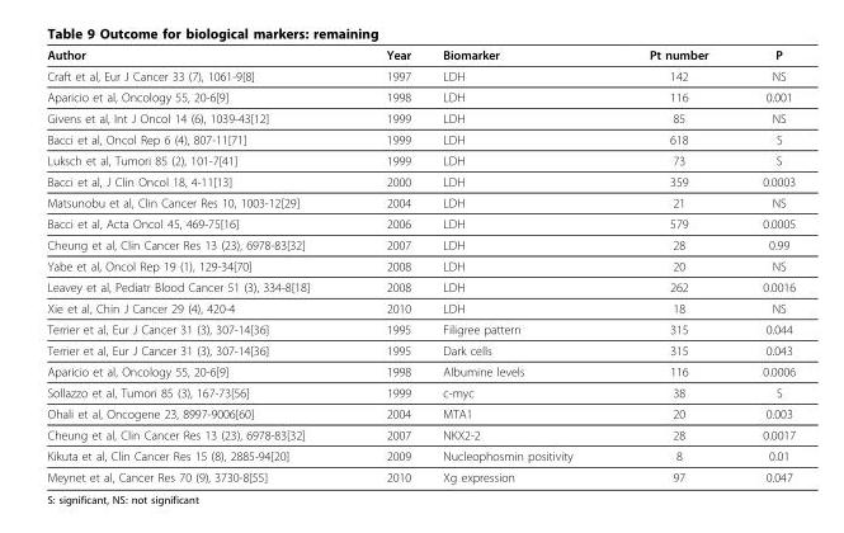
<table><thead><tr><td>Author</td><td>Year</td><td>Biomarker</td><td>Pt number</td><td>P</td></tr></thead><tbody><tr><td>Craft et al, Eur J Cancer 33 (7), 1061-9[8]</td><td>1997</td><td>LDH</td><td>142</td><td>NS</td></tr><tr><td>Aparicio et al, Oncology 55, 20-6[9]</td><td>1998</td><td>LDH</td><td>116</td><td>0.001</td></tr><tr><td>Givens et al, Int J Oncol 14 (6), 1039-43[12]</td><td>1999</td><td>LDH</td><td>85</td><td>NS</td></tr><tr><td>Bacci et al, Oncol Rep 6 (4), 807-11[71]</td><td>1999</td><td>LDH</td><td>618</td><td>S</td></tr><tr><td>Luksch et al, Tumori 85 (2), 101-7[41]</td><td>1999</td><td>LDH</td><td>73</td><td>S</td></tr><tr><td>Bacci et al, J Clin Oncol 18, 4-11[13]</td><td>2000</td><td>LDH</td><td>359</td><td>0.0003</td></tr><tr><td>Matsunobu et al, Clin Cancer Res 10, 1003-12[29]</td><td>2004</td><td>LDH</td><td>21</td><td>NS</td></tr><tr><td>Bacci et al, Acta Oncol 45, 469-75[16]</td><td>2006</td><td>LDH</td><td>579</td><td>0.0005</td></tr><tr><td>Cheung et al, Clin Cancer Res 13 (23), 6978-83[32]</td><td>2007</td><td>LDH</td><td>28</td><td>0.99</td></tr><tr><td>Yabe et al, Oncol Rep 19 (1), 129-34[70]</td><td>2008</td><td>LDH</td><td>20</td><td>NS</td></tr><tr><td>Leavey et al, Pediatr Blood Cancer 51 (3), 334-8[18]</td><td>2008</td><td>LDH</td><td>262</td><td>0.0016</td></tr><tr><td>Xie et al, Chin J Cancer 29 (4), 420-4</td><td>2010</td><td>LDH</td><td>18</td><td>NS</td></tr><tr><td>Terrier et al, Eur J Cancer 31 (3), 307-14[36]</td><td>1995</td><td>Filigree pattern</td><td>315</td><td>0.044</td></tr><tr><td>Terrier et al, Eur J Cancer 31 (3), 307-14[36]</td><td>1995</td><td>Dark cells</td><td>315</td><td>0.043</td></tr><tr><td>Aparicio et al, Oncology 55, 20-6[9]</td><td>1998</td><td>Albumine levels</td><td>116</td><td>0.0006</td></tr><tr><td>Sollazzo et al, Tumori 85 (3), 167-73[56]</td><td>1999</td><td>c-myc</td><td>38</td><td>S</td></tr><tr><td>Ohali et al, Oncogene 23, 8997-9006[60]</td><td>2004</td><td>MTA1</td><td>20</td><td>0.003</td></tr><tr><td>Cheung et al, Clin Cancer Res 13 (23), 6978-83[32]</td><td>2007</td><td>NKX2-2</td><td>28</td><td>0.0017</td></tr><tr><td>Kikuta et al, Clin Cancer Res 15 (8), 2885-94[20]</td><td>2009</td><td>Nucleophosmin positivity</td><td>8</td><td>0.01</td></tr><tr><td>Meynet et al, Cancer Res 70 (9), 3730-8[55]</td><td>2010</td><td>Xg expression</td><td>97</td><td>0.047</td></tr></tbody></table>